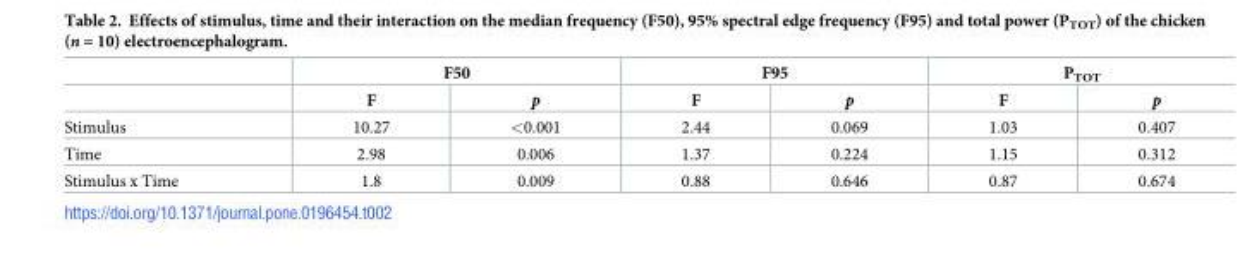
<table><thead><tr><td rowspan="2"></td><td colspan="2">F50</td><td colspan="2">F95</td><td colspan="2">P<sub>TOT</sub></td></tr><tr><td>F</td><td>p</td><td>F</td><td>p</td><td>F</td><td>p</td></tr></thead><tbody><tr><td>Stimulus</td><td>10.27</td><td>&lt;0.001</td><td>2.44</td><td>0.069</td><td>1.03</td><td>0.407</td></tr><tr><td>Time</td><td>2.98</td><td>0.006</td><td>1.37</td><td>0.224</td><td>1.15</td><td>0.312</td></tr><tr><td>Stimulus x Time</td><td>1.8</td><td>0.009</td><td>0.88</td><td>0.646</td><td>0.87</td><td>0.674</td></tr></tbody></table>